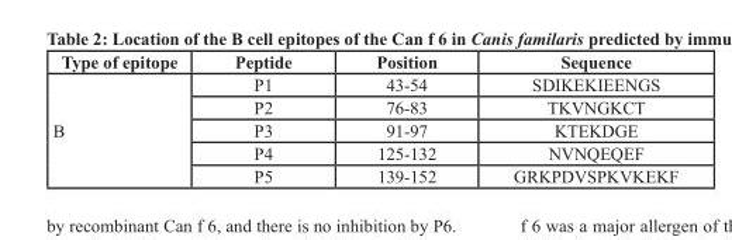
<table><thead><tr><td>Type of epitope</td><td>Peptide</td><td>Position</td><td>Sequence</td></tr></thead><tbody><tr><td rowspan="5">B</td><td>P1</td><td>43-54</td><td>SDIKEKIEENGS</td></tr><tr><td>P2</td><td>76-83</td><td>TKVNGKCT</td></tr><tr><td>P3</td><td>91-97</td><td>KTEKDGE</td></tr><tr><td>P4</td><td>125-132</td><td>NVNQEQEF</td></tr><tr><td>P5</td><td>139-152</td><td>GRKPDVSPKVKEKF</td></tr></tbody></table>